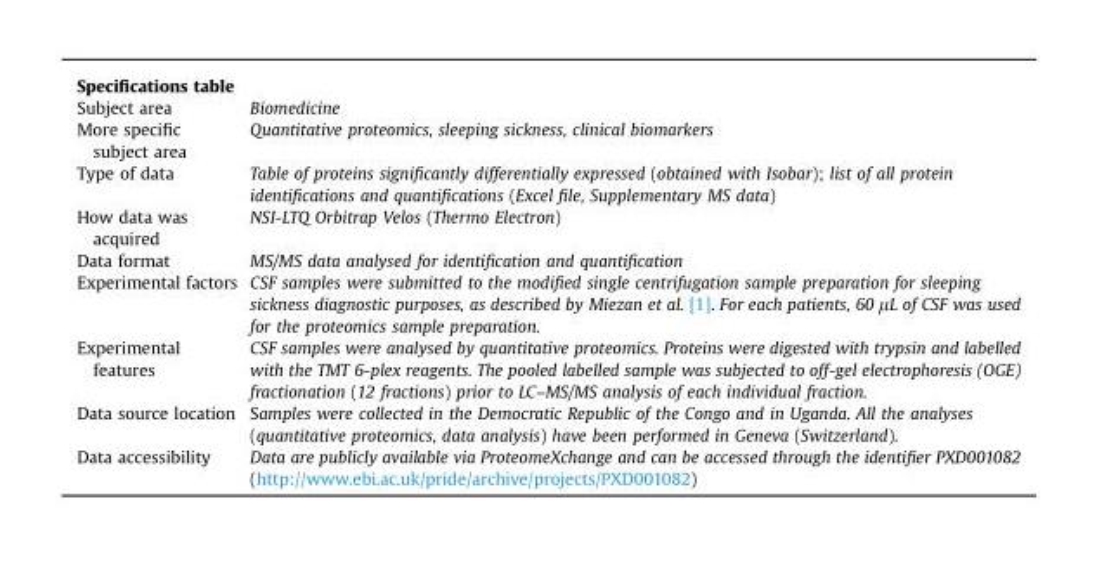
<table><tbody><tr><td colspan="2">Specifications table</td></tr><tr><td>Subject area</td><td>Biomedicine</td></tr><tr><td>More specific subject area</td><td>Quantitative proteomics, sleeping sickness, clinical biomarkers</td></tr><tr><td>Type of data</td><td>Table of proteins significantly differentially expressed (obtained with Isobar); list of all protein identifications and quantifications (Excel file, Supplementary MS data)</td></tr><tr><td>How data was acquired</td><td>NSI-LTQ Orbitrap Velos (Thermo Electron)</td></tr><tr><td>Data format</td><td>MS/MS data analysed for identification and quantification</td></tr><tr><td>Experimental factors</td><td>CSF samples were submitted to the modified single centrifugation sample preparation for sleeping sickness diagnostic purposes, as described by Miezan et al. [1]. For each patients, 60 µL of CSF was used for the proteomics sample preparation.</td></tr><tr><td>Experimental features</td><td>CSF samples were analysed by quantitative proteomics. Proteins were digested with trypsin and labelled with the TMT 6-plex reagents. The pooled labelled sample was subjected to off-gel electrophoresis (OGE) fractionation (12 fractions) prior to LC–MS/MS analysis of each individual fraction.</td></tr><tr><td>Data source location</td><td>Samples were collected in the Democratic Republic of the Congo and in Uganda. All the analyses (quantitative proteomics, data analysis) have been performed in Geneva (Switzerland).</td></tr><tr><td>Data accessibility</td><td>Data are publicly available via ProteomeXchange and can be accessed through the identifier PXD001082 (http://www.ebi.ac.uk/pride/archive/projects/PXD001082)</td></tr></tbody></table>